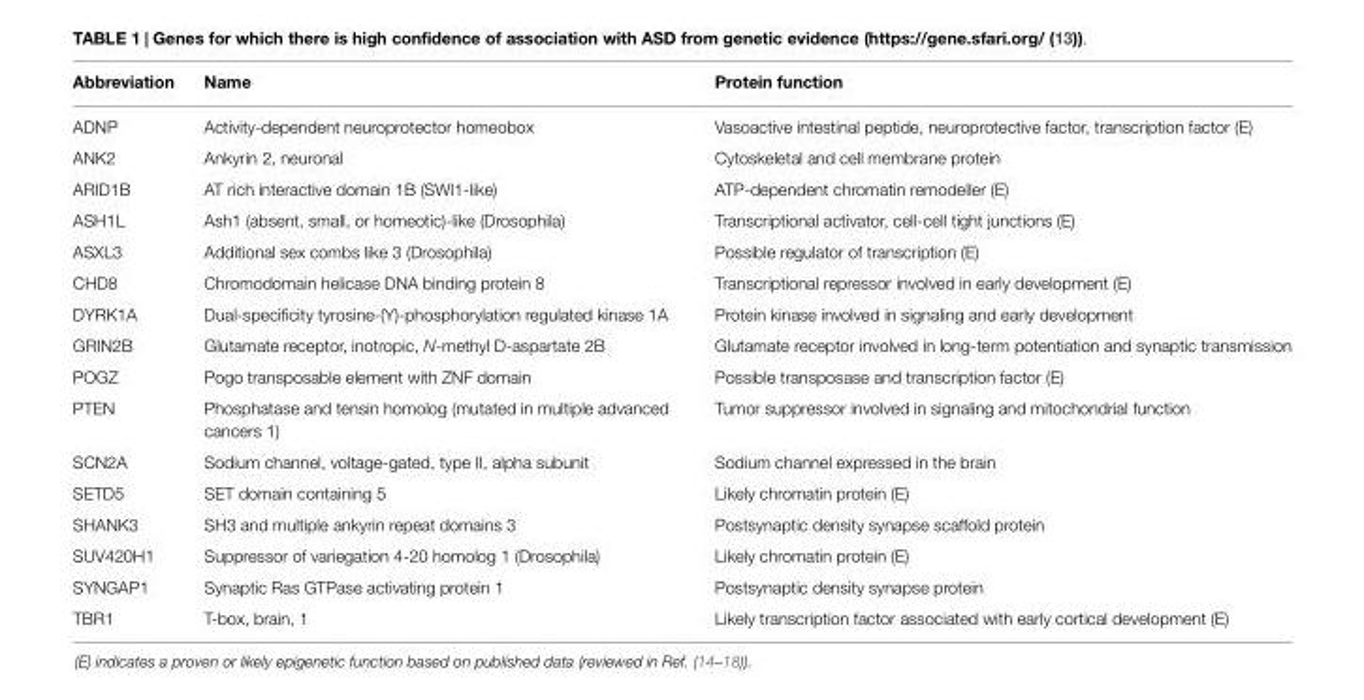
<table><thead><tr><td>Abbreviation</td><td>Name</td><td>Protein function</td></tr></thead><tbody><tr><td>ADNP</td><td>Activity-dependent neuroprotector homeobox</td><td>Vasoactive intestinal peptide, neuroprotective factor, transcription factor (E)</td></tr><tr><td>ANK2</td><td>Ankyrin 2, neuronal</td><td>Cytoskeletal and cell membrane protein</td></tr><tr><td>ARID1B</td><td>AT rich interactive domain 1B (SWI1-like)</td><td>ATP-dependent chromatin remodeller (E)</td></tr><tr><td>ASH1L</td><td>Ash1 (absent, small, or homeotic)-like (Drosophila)</td><td>Transcriptional activator, cell-cell tight junctions (E)</td></tr><tr><td>ASXL3</td><td>Additional sex combs like 3 (Drosophila)</td><td>Possible regulator of transcription (E)</td></tr><tr><td>CHD8</td><td>Chromodomain helicase DNA binding protein 8</td><td>Transcriptional repressor involved in early development (E)</td></tr><tr><td>DYRK1A</td><td>Dual-specificity tyrosine-(Y)-phosphorylation regulated kinase 1A</td><td>Protein kinase involved in signaling and early development</td></tr><tr><td>GRIN2B</td><td>Glutamate receptor, inotropic, N-methyl D-aspartate 2B</td><td>Glutamate receptor involved in long-term potentiation and synaptic transmission</td></tr><tr><td>POGZ</td><td>Pogo transposable element with ZNF domain</td><td>Possible transposase and transcription factor (E)</td></tr><tr><td>PTEN</td><td>Phosphatase and tensin homolog (mutated in multiple advanced cancers 1)</td><td>Tumor suppressor involved in signaling and mitochondrial function</td></tr><tr><td>SCN2A</td><td>Sodium channel, voltage-gated, type II, alpha subunit</td><td>Sodium channel expressed in the brain</td></tr><tr><td>SETD5</td><td>SET domain containing 5</td><td>Likely chromatin protein (E)</td></tr><tr><td>SHANK3</td><td>SH3 and multiple ankyrin repeat domains 3</td><td>Postsynaptic density synapse scaffold protein</td></tr><tr><td>SUV420H1</td><td>Suppressor of variegation 4-20 homolog 1 (Drosophila)</td><td>Likely chromatin protein (E)</td></tr><tr><td>SYNGAP1</td><td>Synaptic Ras GTPase activating protein 1</td><td>Postsynaptic density synapse protein</td></tr><tr><td>TBR1</td><td>T-box, brain, 1</td><td>Likely transcription factor associated with early cortical development (E)</td></tr></tbody></table>